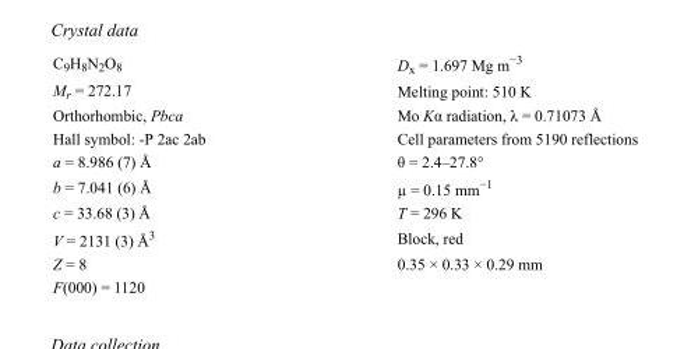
<table><tbody><tr><td>C<sub>9</sub>H<sub>8</sub>N<sub>2</sub>O<sub>8</sub></td><td>D<sub>x</sub> = 1.697 Mg m<sup>−3</sup></td></tr><tr><td>M<sub>r</sub> = 272.17</td><td>Melting point: 510 K</td></tr><tr><td>Orthorhombic, Pbca</td><td>Mo Kα radiation, λ = 0.71073 Å</td></tr><tr><td>Hall symbol: -P 2ac 2ab</td><td>Cell parameters from 5190 reflections</td></tr><tr><td>a = 8.986 (7) Å</td><td>θ = 2.4–27.8°</td></tr><tr><td>b = 7.041 (6) Å</td><td>µ = 0.15 mm<sup>−1</sup></td></tr><tr><td>c = 33.68 (3) Å</td><td>T = 296 K</td></tr><tr><td>V = 2131 (3) Å<sup>3</sup></td><td>Block, red</td></tr><tr><td>Z = 8</td><td>0.35 × 0.33 × 0.29 mm</td></tr><tr><td>F(000) = 1120</td><td></td></tr></tbody></table>